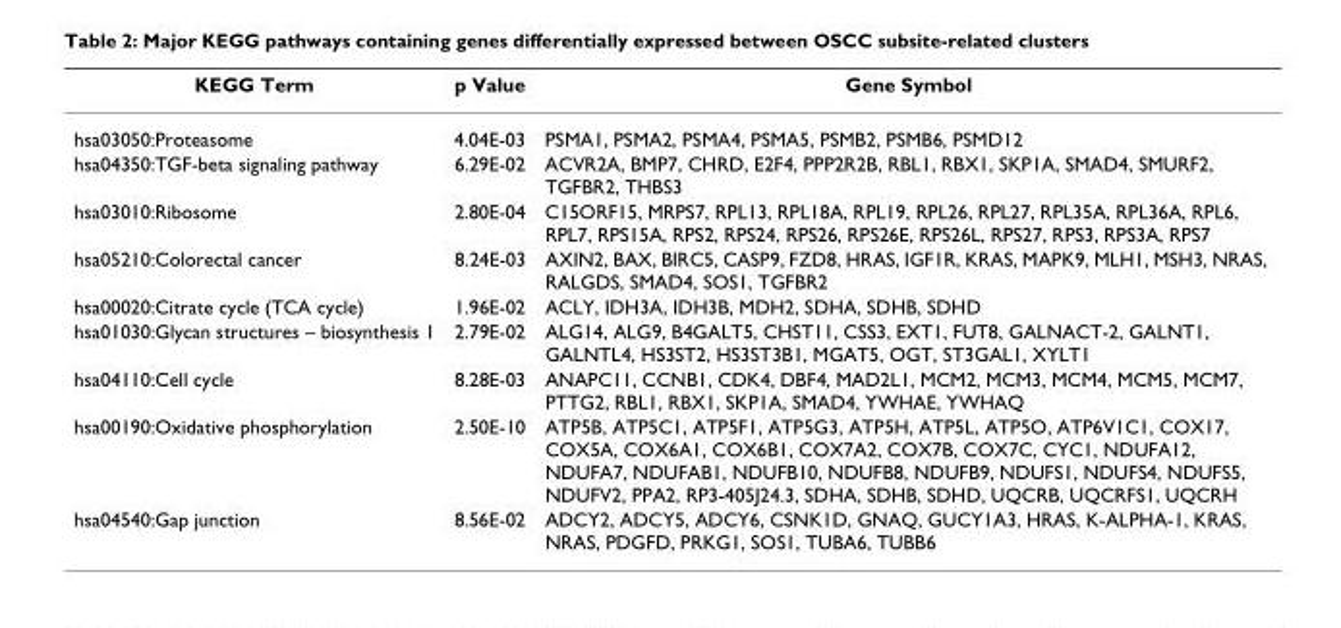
<table><thead><tr><td>KEGG Term</td><td>p Value</td><td>Gene Symbol</td></tr></thead><tbody><tr><td>hsa03050:Proteasome</td><td>4.04E-03</td><td>PSMA1, PSMA2, PSMA4, PSMA5, PSMB2, PSMB6, PSMD12</td></tr><tr><td>hsa04350:TGF-beta signaling pathway</td><td>6.29E-02</td><td>ACVR2A, BMP7, CHRD, E2F4, PPP2R2B, RBL1, RBX1, SKP1A, SMAD4, SMURF2, TGFBR2, THBS3</td></tr><tr><td>hsa03010:Ribosome</td><td>2.80E-04</td><td>C15ORF15, MRPS7, RPL13, RPL18A, RPL19, RPL26, RPL27, RPL35A, RPL36A, RPL6, RPL7, RPS15A, RPS2, RPS24, RPS26, RPS26E, RPS26L, RPS27, RPS3, RPS3A, RPS7</td></tr><tr><td>hsa05210:Colorectal cancer</td><td>8.24E-03</td><td>AXIN2, BAX, BIRC5, CASP9, FZD8, HRAS, IGF1R, KRAS, MAPK9, MLH1, MSH3, NRAS, RALGDS, SMAD4, SOS1, TGFBR2</td></tr><tr><td>hsa00020:Citrate cycle (TCA cycle)</td><td>1.96E-02</td><td>ACLY, IDH3A, IDH3B, MDH2, SDHA, SDHB, SDHD</td></tr><tr><td>hsa01030:Glycan structures – biosynthesis 1</td><td>2.79E-02</td><td>ALG14, ALG9, B4GALT5, CHST11, CSS3, EXT1, FUT8, GALNACT-2, GALNT1, GALNTL4, HS3ST2, HS3ST3B1, MGAT5, OGT, ST3GAL1, XYLT1</td></tr><tr><td>hsa04110:Cell cycle</td><td>8.28E-03</td><td>ANAPC11, CCNB1, CDK4, DBF4, MAD2L1, MCM2, MCM3, MCM4, MCM5, MCM7, PTTG2, RBL1, RBX1, SKP1A, SMAD4, YWHAE, YWHAQ</td></tr><tr><td>hsa00190:Oxidative phosphorylation</td><td>2.50E-10</td><td>ATP5B, ATP5C1, ATP5F1, ATP5G3, ATP5H, ATP5L, ATP5O, ATP6V1C1, COX17, COX5A, COX6A1, COX6B1, COX7A2, COX7B, COX7C, CYC1, NDUFA12, NDUFA7, NDUFAB1, NDUFB10, NDUFB8, NDUFB9, NDUFS1, NDUFS4, NDUFS5, NDUFV2, PPA2, RP3-405J24.3, SDHA, SDHB, SDHD, UQCRB, UQCRFS1, UQCRH</td></tr><tr><td>hsa04540:Gap junction</td><td>8.56E-02</td><td>ADCY2, ADCY5, ADCY6, CSNK1D, GNAQ, GUCY1A3, HRAS, K-ALPHA-1, KRAS, NRAS, PDGFD, PRKG1, SOS1, TUBA6, TUBB6</td></tr></tbody></table>